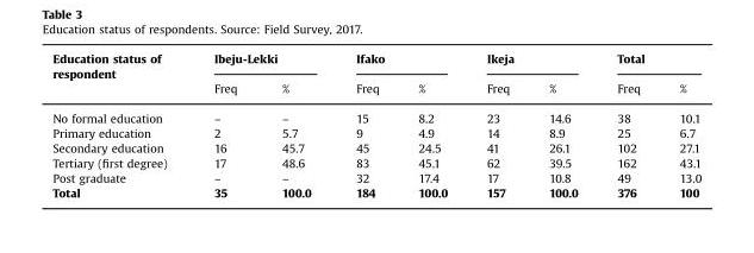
<table><thead><tr><td rowspan="2">Education status of respondent</td><td colspan="2">Ibeju-Lekki</td><td colspan="2">Ifako</td><td colspan="2">Ikeja</td><td colspan="2">Total</td></tr><tr><td>Freq</td><td>%</td><td>Freq</td><td>%</td><td>Freq</td><td>%</td><td>Freq</td><td>%</td></tr></thead><tbody><tr><td>No formal education</td><td>–</td><td>–</td><td>15</td><td>8.2</td><td>23</td><td>14.6</td><td>38</td><td>10.1</td></tr><tr><td>Primary education</td><td>2</td><td>5.7</td><td>9</td><td>4.9</td><td>14</td><td>8.9</td><td>25</td><td>6.7</td></tr><tr><td>Secondary education</td><td>16</td><td>45.7</td><td>45</td><td>24.5</td><td>41</td><td>26.1</td><td>102</td><td>27.1</td></tr><tr><td>Tertiary (first degree)</td><td>17</td><td>48.6</td><td>83</td><td>45.1</td><td>62</td><td>39.5</td><td>162</td><td>43.1</td></tr><tr><td>Post graduate</td><td>–</td><td>–</td><td>32</td><td>17.4</td><td>17</td><td>10.8</td><td>49</td><td>13.0</td></tr><tr><td>Total</td><td>35</td><td>100.0</td><td>184</td><td>100.0</td><td>157</td><td>100.0</td><td>376</td><td>100</td></tr></tbody></table>